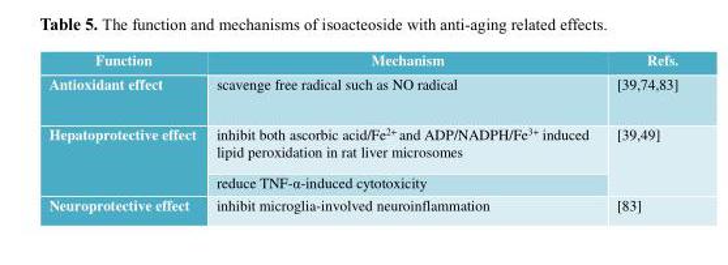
<table><thead><tr><td>Function</td><td>Mechanism</td><td>Refs.</td></tr></thead><tbody><tr><td>Antioxidant effect</td><td>scavenge free radical such as NO radical</td><td>[39,74,83]</td></tr><tr><td rowspan="2">Hepatoprotective effect</td><td>inhibit both ascorbic acid/Fe<sup>2+</sup> and ADP/NADPH/Fe<sup>3+</sup> induced lipid peroxidation in rat liver microsomes</td><td rowspan="2">[39,49]</td></tr><tr><td>reduce TNF-α-induced cytotoxicity</td></tr><tr><td>Neuroprotective effect</td><td>inhibit microglia-involved neuroinflammation</td><td>[83]</td></tr></tbody></table>